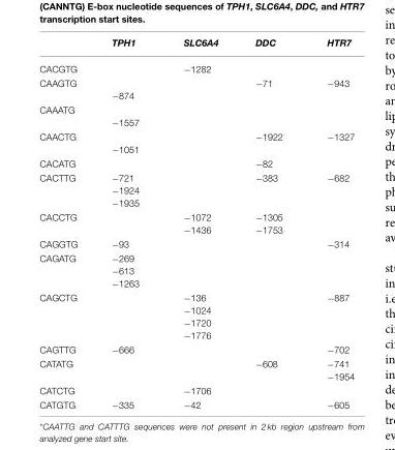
<table><thead><tr><td></td><td>TPH1</td><td>SLC6A4</td><td>DDC</td><td>HTR7</td></tr></thead><tbody><tr><td>CACGTG</td><td></td><td>−1282</td><td></td><td></td></tr><tr><td>CAAGTG</td><td>−874</td><td></td><td>−71</td><td>−943</td></tr><tr><td>CAAATG</td><td>−1557</td><td></td><td></td><td></td></tr><tr><td>CAACTG</td><td>−1051</td><td></td><td>−1922</td><td>−1327</td></tr><tr><td>CACATG</td><td></td><td></td><td>−82</td><td></td></tr><tr><td>CACTTG</td><td>−721 −1924 −1935</td><td></td><td>−383</td><td>−682</td></tr><tr><td>CACCTG</td><td></td><td>−1072 −1436</td><td>−1305 −1753</td><td></td></tr><tr><td>CAGGTG</td><td>−93</td><td></td><td></td><td>−314</td></tr><tr><td>CAGATG</td><td>−269 −613 −1263</td><td></td><td></td><td></td></tr><tr><td>CAGCTG</td><td></td><td>−136 −1024 −1720 −1776</td><td></td><td>−887</td></tr><tr><td>CAGTTG</td><td>−666</td><td></td><td></td><td>−702</td></tr><tr><td>CATATG</td><td></td><td></td><td>−608</td><td>−741 −1954</td></tr><tr><td>CATCTG</td><td></td><td>−1706</td><td></td><td></td></tr><tr><td>CATGTG</td><td>−335</td><td>−42</td><td></td><td>−605</td></tr></tbody></table>